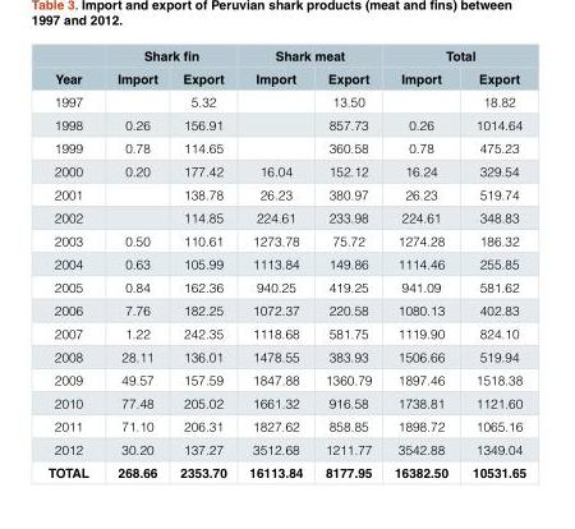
<table><thead><tr><td rowspan="2">Year</td><td colspan="2">Shark fin</td><td colspan="2">Shark meat</td><td colspan="2">Total</td></tr><tr><td>Import</td><td>Export</td><td>Import</td><td>Export</td><td>Import</td><td>Export</td></tr></thead><tbody><tr><td>1997</td><td></td><td>5.32</td><td></td><td>13.50</td><td></td><td>18.82</td></tr><tr><td>1998</td><td>0.26</td><td>156.91</td><td></td><td>857.73</td><td>0.26</td><td>1014.64</td></tr><tr><td>1999</td><td>0.78</td><td>114.65</td><td></td><td>360.58</td><td>0.78</td><td>475.23</td></tr><tr><td>2000</td><td>0.20</td><td>177.42</td><td>16.04</td><td>152.12</td><td>16.24</td><td>329.54</td></tr><tr><td>2001</td><td></td><td>138.78</td><td>26.23</td><td>380.97</td><td>26.23</td><td>519.74</td></tr><tr><td>2002</td><td></td><td>114.85</td><td>224.61</td><td>233.98</td><td>224.61</td><td>348.83</td></tr><tr><td>2003</td><td>0.50</td><td>110.61</td><td>1273.78</td><td>75.72</td><td>1274.28</td><td>186.32</td></tr><tr><td>2004</td><td>0.63</td><td>105.99</td><td>1113.84</td><td>149.86</td><td>1114.46</td><td>255.85</td></tr><tr><td>2005</td><td>0.84</td><td>162.36</td><td>940.25</td><td>419.25</td><td>941.09</td><td>581.62</td></tr><tr><td>2006</td><td>7.76</td><td>182.25</td><td>1072.37</td><td>220.58</td><td>1080.13</td><td>402.83</td></tr><tr><td>2007</td><td>1.22</td><td>242.35</td><td>1118.68</td><td>581.75</td><td>1119.90</td><td>824.10</td></tr><tr><td>2008</td><td>28.11</td><td>136.01</td><td>1478.55</td><td>383.93</td><td>1506.66</td><td>519.94</td></tr><tr><td>2009</td><td>49.57</td><td>157.59</td><td>1847.88</td><td>1360.79</td><td>1897.46</td><td>1518.38</td></tr><tr><td>2010</td><td>77.48</td><td>205.02</td><td>1661.32</td><td>916.58</td><td>1738.81</td><td>1121.60</td></tr><tr><td>2011</td><td>71.10</td><td>206.31</td><td>1827.62</td><td>858.85</td><td>1898.72</td><td>1065.16</td></tr><tr><td>2012</td><td>30.20</td><td>137.27</td><td>3512.68</td><td>1211.77</td><td>3542.88</td><td>1349.04</td></tr><tr><td>TOTAL</td><td>268.66</td><td>2353.70</td><td>16113.84</td><td>8177.95</td><td>16382.50</td><td>10531.65</td></tr></tbody></table>